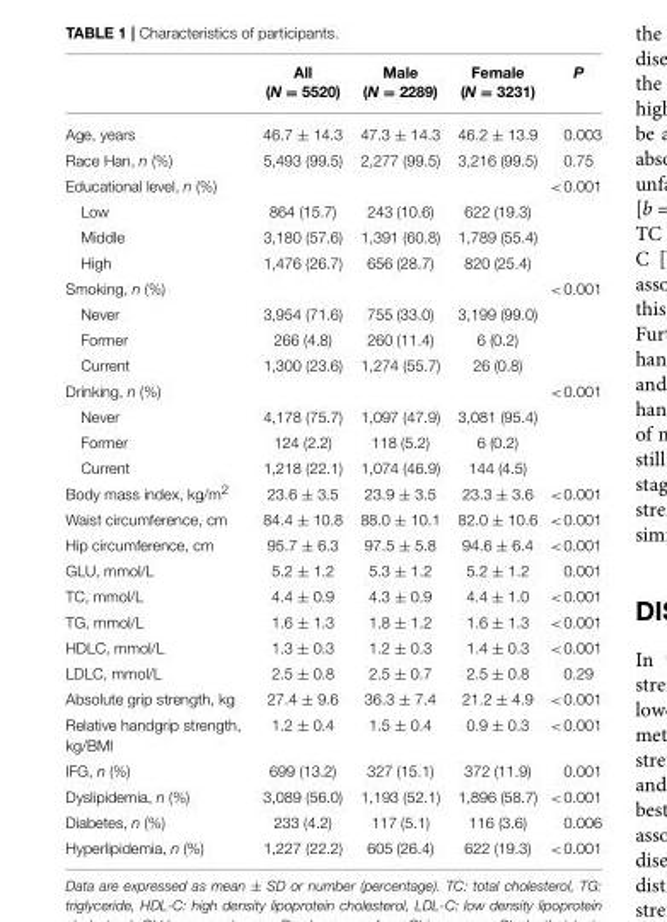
<table><thead><tr><td></td><td>All (N = 5520)</td><td>Male (N = 2289)</td><td>Female (N = 3231)</td><td>P</td></tr></thead><tbody><tr><td>Age, years</td><td>46.7 ± 14.3</td><td>47.3 ± 14.3</td><td>46.2 ± 13.9</td><td>0.003</td></tr><tr><td>Race Han, n (%)</td><td>5,493 (99.5)</td><td>2,277 (99.5)</td><td>3,216 (99.5)</td><td>0.75</td></tr><tr><td>Educational level, n (%)</td><td></td><td></td><td></td><td>&lt;0.001</td></tr><tr><td>Low</td><td>864 (15.7)</td><td>243 (10.6)</td><td>622 (19.3)</td><td></td></tr><tr><td>Middle</td><td>3,180 (57.6)</td><td>1,391 (60.8)</td><td>1,789 (55.4)</td><td></td></tr><tr><td>High</td><td>1,476 (26.7)</td><td>656 (28.7)</td><td>820 (25.4)</td><td></td></tr><tr><td>Smoking, n (%)</td><td></td><td></td><td></td><td>&lt;0.001</td></tr><tr><td>Never</td><td>3,954 (71.6)</td><td>755 (33.0)</td><td>3,199 (99.0)</td><td></td></tr><tr><td>Former</td><td>266 (4.8)</td><td>260 (11.4)</td><td>6 (0.2)</td><td></td></tr><tr><td>Current</td><td>1,300 (23.6)</td><td>1,274 (55.7)</td><td>26 (0.8)</td><td></td></tr><tr><td>Drinking, n (%)</td><td></td><td></td><td></td><td>&lt;0.001</td></tr><tr><td>Never</td><td>4,178 (75.7)</td><td>1,097 (47.9)</td><td>3,081 (95.4)</td><td></td></tr><tr><td>Former</td><td>124 (2.2)</td><td>118 (5.2)</td><td>6 (0.2)</td><td></td></tr><tr><td>Current</td><td>1,218 (22.1)</td><td>1,074 (46.9)</td><td>144 (4.5)</td><td></td></tr><tr><td>Body mass index, kg/m<sup>2</sup></td><td>23.6 ± 3.5</td><td>23.9 ± 3.5</td><td>23.3 ± 3.6</td><td>&lt;0.001</td></tr><tr><td>Waist circumference, cm</td><td>84.4 ± 10.8</td><td>88.0 ± 10.1</td><td>82.0 ± 10.6</td><td>&lt;0.001</td></tr><tr><td>Hip circumference, cm</td><td>95.7 ± 6.3</td><td>97.5 ± 5.8</td><td>94.6 ± 6.4</td><td>&lt;0.001</td></tr><tr><td>GLU, mmol/L</td><td>5.2 ± 1.2</td><td>5.3 ± 1.2</td><td>5.2 ± 1.2</td><td>0.001</td></tr><tr><td>TC, mmol/L</td><td>4.4 ± 0.9</td><td>4.3 ± 0.9</td><td>4.4 ± 1.0</td><td>&lt;0.001</td></tr><tr><td>TG, mmol/L</td><td>1.6 ± 1.3</td><td>1.8 ± 1.2</td><td>1.6 ± 1.3</td><td>&lt;0.001</td></tr><tr><td>HDLC, mmol/L</td><td>1.3 ± 0.3</td><td>1.2 ± 0.3</td><td>1.4 ± 0.3</td><td>&lt;0.001</td></tr><tr><td>LDLC, mmol/L</td><td>2.5 ± 0.8</td><td>2.5 ± 0.7</td><td>2.5 ± 0.8</td><td>0.29</td></tr><tr><td>Absolute grip strength, kg</td><td>27.4 ± 9.6</td><td>36.3 ± 7.4</td><td>21.2 ± 4.9</td><td>&lt;0.001</td></tr><tr><td>Relative handgrip strength, kg/BMI</td><td>1.2 ± 0.4</td><td>1.5 ± 0.4</td><td>0.9 ± 0.3</td><td>&lt;0.001</td></tr><tr><td>IFG, n (%)</td><td>699 (13.2)</td><td>327 (15.1)</td><td>372 (11.9)</td><td>0.001</td></tr><tr><td>Dyslipidemia, n (%)</td><td>3,089 (56.0)</td><td>1,193 (52.1)</td><td>1,896 (58.7)</td><td>&lt;0.001</td></tr><tr><td>Diabetes, n (%)</td><td>233 (4.2)</td><td>117 (5.1)</td><td>116 (3.6)</td><td>0.006</td></tr><tr><td>Hyperlipidemia, n (%)</td><td>1,227 (22.2)</td><td>605 (26.4)</td><td>622 (19.3)</td><td>&lt;0.001</td></tr></tbody></table>